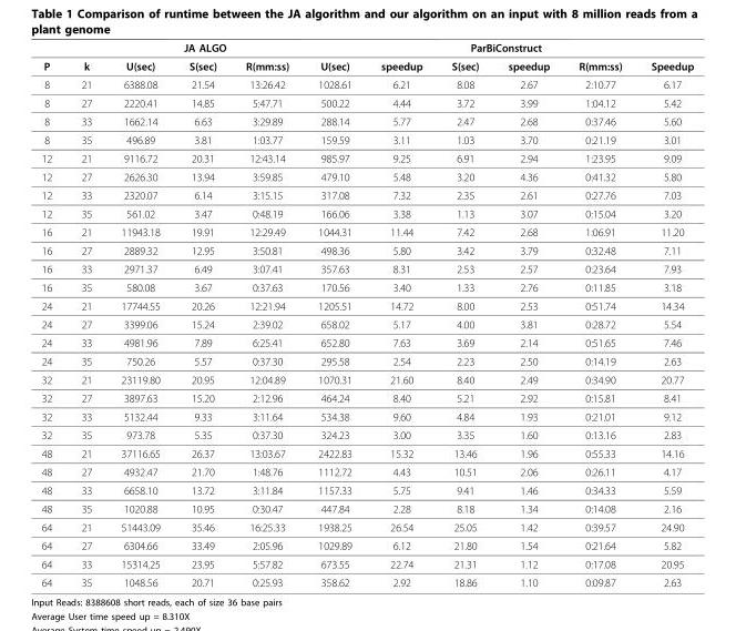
<table><thead><tr><td rowspan="2">P</td><td rowspan="2">k</td><td colspan="3">JA ALGO</td><td colspan="6">ParBiConstruct</td></tr><tr><td>U(sec)</td><td>S(sec)</td><td>R(mm:ss)</td><td>U(sec)</td><td>speedup</td><td>S(sec)</td><td>speedup</td><td>R(mm:ss)</td><td>Speedup</td></tr></thead><tbody><tr><td>8</td><td>21</td><td>6388.08</td><td>21.54</td><td>13:26.42</td><td>1028.61</td><td>6.21</td><td>8.08</td><td>2.67</td><td>2:10.77</td><td>6.17</td></tr><tr><td>8</td><td>27</td><td>2220.41</td><td>14.85</td><td>5:47.71</td><td>500.22</td><td>4.44</td><td>3.72</td><td>3.99</td><td>1:04.12</td><td>5.42</td></tr><tr><td>8</td><td>33</td><td>1662.14</td><td>6.63</td><td>3:29.89</td><td>288.14</td><td>5.77</td><td>2.47</td><td>2.68</td><td>0:37.46</td><td>5.60</td></tr><tr><td>8</td><td>35</td><td>496.89</td><td>3.81</td><td>1:03.77</td><td>159.59</td><td>3.11</td><td>1.03</td><td>3.70</td><td>0:21.19</td><td>3.01</td></tr><tr><td>12</td><td>21</td><td>9116.72</td><td>20.31</td><td>12:43.14</td><td>985.97</td><td>9.25</td><td>6.91</td><td>2.94</td><td>1:23.95</td><td>9.09</td></tr><tr><td>12</td><td>27</td><td>2626.30</td><td>13.94</td><td>3:59.85</td><td>479.10</td><td>5.48</td><td>3.20</td><td>4.36</td><td>0:41.32</td><td>5.80</td></tr><tr><td>12</td><td>33</td><td>2320.07</td><td>6.14</td><td>3:15.15</td><td>317.08</td><td>7.32</td><td>2.35</td><td>2.61</td><td>0:27.76</td><td>7.03</td></tr><tr><td>12</td><td>35</td><td>561.02</td><td>3.47</td><td>0:48.19</td><td>166.06</td><td>3.38</td><td>1.13</td><td>3.07</td><td>0:15.04</td><td>3.20</td></tr><tr><td>16</td><td>21</td><td>11943.18</td><td>19.91</td><td>12:29.49</td><td>1044.31</td><td>11.44</td><td>7.42</td><td>2.68</td><td>1:06.91</td><td>11.20</td></tr><tr><td>16</td><td>27</td><td>2889.32</td><td>12.95</td><td>3:50.81</td><td>498.36</td><td>5.80</td><td>3.42</td><td>3.79</td><td>0:32.48</td><td>7.11</td></tr><tr><td>16</td><td>33</td><td>2971.37</td><td>6.49</td><td>3:07.41</td><td>357.63</td><td>8.31</td><td>2.53</td><td>2.57</td><td>0:23.64</td><td>7.93</td></tr><tr><td>16</td><td>35</td><td>580.08</td><td>3.67</td><td>0:37.63</td><td>170.56</td><td>3.40</td><td>1.33</td><td>2.76</td><td>0:11.85</td><td>3.18</td></tr><tr><td>24</td><td>21</td><td>17744.55</td><td>20.26</td><td>12:21.94</td><td>1205.51</td><td>14.72</td><td>8.00</td><td>2.53</td><td>0:51.74</td><td>14.34</td></tr><tr><td>24</td><td>27</td><td>3399.06</td><td>15.24</td><td>2:39.02</td><td>658.02</td><td>5.17</td><td>4.00</td><td>3.81</td><td>0:28.72</td><td>5.54</td></tr><tr><td>24</td><td>33</td><td>4981.96</td><td>7.89</td><td>6:25.41</td><td>652.80</td><td>7.63</td><td>3.69</td><td>2.14</td><td>0:51.65</td><td>7.46</td></tr><tr><td>24</td><td>35</td><td>750.26</td><td>5.57</td><td>0:37.30</td><td>295.58</td><td>2.54</td><td>2.23</td><td>2.50</td><td>0:14.19</td><td>2.63</td></tr><tr><td>32</td><td>21</td><td>23119.80</td><td>20.95</td><td>12:04.89</td><td>1070.31</td><td>21.60</td><td>8.40</td><td>2.49</td><td>0:34.90</td><td>20.77</td></tr><tr><td>32</td><td>27</td><td>3897.63</td><td>15.20</td><td>2:12.96</td><td>464.24</td><td>8.40</td><td>5.21</td><td>2.92</td><td>0:15.81</td><td>8.41</td></tr><tr><td>32</td><td>33</td><td>5132.44</td><td>9.33</td><td>3:11.64</td><td>534.38</td><td>9.60</td><td>4.84</td><td>1.93</td><td>0:21.01</td><td>9.12</td></tr><tr><td>32</td><td>35</td><td>973.78</td><td>5.35</td><td>0:37.30</td><td>324.23</td><td>3.00</td><td>3.35</td><td>1.60</td><td>0:13.16</td><td>2.83</td></tr><tr><td>48</td><td>21</td><td>37116.65</td><td>26.37</td><td>13:03.67</td><td>2422.83</td><td>15.32</td><td>13.46</td><td>1.96</td><td>0:55.33</td><td>14.16</td></tr><tr><td>48</td><td>27</td><td>4932.47</td><td>21.70</td><td>1:48.76</td><td>1112.72</td><td>4.43</td><td>10.51</td><td>2.06</td><td>0:26.11</td><td>4.17</td></tr><tr><td>48</td><td>33</td><td>6658.10</td><td>13.72</td><td>3:11.84</td><td>1157.33</td><td>5.75</td><td>9.41</td><td>1.46</td><td>0:34.33</td><td>5.59</td></tr><tr><td>48</td><td>35</td><td>1020.88</td><td>10.95</td><td>0:30.47</td><td>447.84</td><td>2.28</td><td>8.18</td><td>1.34</td><td>0:14.08</td><td>2.16</td></tr><tr><td>64</td><td>21</td><td>51443.09</td><td>35.46</td><td>16:25.33</td><td>1938.25</td><td>26.54</td><td>25.05</td><td>1.42</td><td>0:39.57</td><td>24.90</td></tr><tr><td>64</td><td>27</td><td>6304.66</td><td>33.49</td><td>2:05.96</td><td>1029.89</td><td>6.12</td><td>21.80</td><td>1.54</td><td>0:21.64</td><td>5.82</td></tr><tr><td>64</td><td>33</td><td>15314.25</td><td>23.95</td><td>5:57.82</td><td>673.55</td><td>22.74</td><td>21.31</td><td>1.12</td><td>0:17.08</td><td>20.95</td></tr><tr><td>64</td><td>35</td><td>1048.56</td><td>20.71</td><td>0:25.93</td><td>358.62</td><td>2.92</td><td>18.86</td><td>1.10</td><td>0:09.87</td><td>2.63</td></tr></tbody></table>